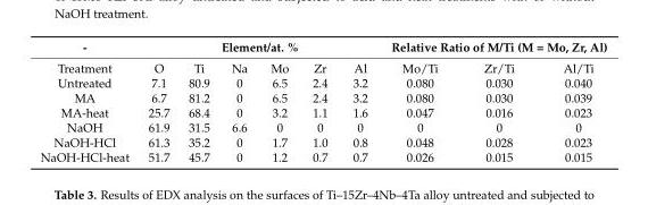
<table><thead><tr><td rowspan="2">- Treatment</td><td colspan="6">Element/at. %</td><td colspan="3">Relative Ratio of M/Ti (M = Mo, Zr, Al)</td></tr><tr><td>O</td><td>Ti</td><td>Na</td><td>Mo</td><td>Zr</td><td>Al</td><td>Mo/Ti</td><td>Zr/Ti</td><td>Al/Ti</td></tr></thead><tbody><tr><td>Untreated</td><td>7.1</td><td>80.9</td><td>0</td><td>6.5</td><td>2.4</td><td>3.2</td><td>0.080</td><td>0.030</td><td>0.040</td></tr><tr><td>MA</td><td>6.7</td><td>81.2</td><td>0</td><td>6.5</td><td>2.4</td><td>3.2</td><td>0.080</td><td>0.030</td><td>0.039</td></tr><tr><td>MA-heat</td><td>25.7</td><td>68.4</td><td>0</td><td>3.2</td><td>1.1</td><td>1.6</td><td>0.047</td><td>0.016</td><td>0.023</td></tr><tr><td>NaOH</td><td>61.9</td><td>31.5</td><td>6.6</td><td>0</td><td>0</td><td>0</td><td>0</td><td>0</td><td>0</td></tr><tr><td>NaOH-HCl</td><td>61.3</td><td>35.2</td><td>0</td><td>1.7</td><td>1.0</td><td>0.8</td><td>0.048</td><td>0.028</td><td>0.023</td></tr><tr><td>NaOH-HCl-heat</td><td>51.7</td><td>45.7</td><td>0</td><td>1.2</td><td>0.7</td><td>0.7</td><td>0.026</td><td>0.015</td><td>0.015</td></tr></tbody></table>